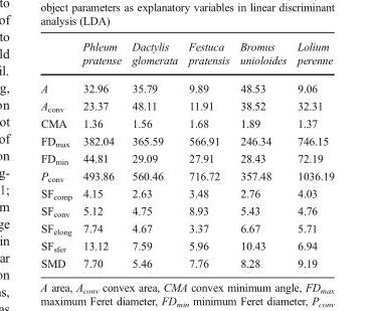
<table><thead><tr><td></td><td>Phleum pratense</td><td>Dactylis glomerata</td><td>Festuca pratensis</td><td>Bromus unioloides</td><td>Lolium perenne</td></tr></thead><tbody><tr><td>A</td><td>32.96</td><td>35.79</td><td>9.89</td><td>48.53</td><td>9.06</td></tr><tr><td>A<sub>conv</sub></td><td>23.37</td><td>48.11</td><td>11.91</td><td>38.52</td><td>32.31</td></tr><tr><td>CMA</td><td>1.36</td><td>1.56</td><td>1.68</td><td>1.89</td><td>1.37</td></tr><tr><td>FD<sub>max</sub></td><td>382.04</td><td>365.59</td><td>566.91</td><td>246.34</td><td>746.15</td></tr><tr><td>FD<sub>min</sub></td><td>44.81</td><td>29.09</td><td>27.91</td><td>28.43</td><td>72.19</td></tr><tr><td>P<sub>conv</sub></td><td>493.86</td><td>560.46</td><td>716.72</td><td>357.48</td><td>1036.19</td></tr><tr><td>SF<sub>comp</sub></td><td>4.15</td><td>2.63</td><td>3.48</td><td>2.76</td><td>4.03</td></tr><tr><td>SF<sub>conv</sub></td><td>5.12</td><td>4.75</td><td>8.93</td><td>5.43</td><td>4.76</td></tr><tr><td>SF<sub>elong</sub></td><td>7.74</td><td>4.67</td><td>3.37</td><td>6.67</td><td>5.71</td></tr><tr><td>SF<sub>sfer</sub></td><td>13.12</td><td>7.59</td><td>5.96</td><td>10.43</td><td>6.94</td></tr><tr><td>SMD</td><td>7.70</td><td>5.46</td><td>7.76</td><td>8.28</td><td>9.19</td></tr></tbody></table>